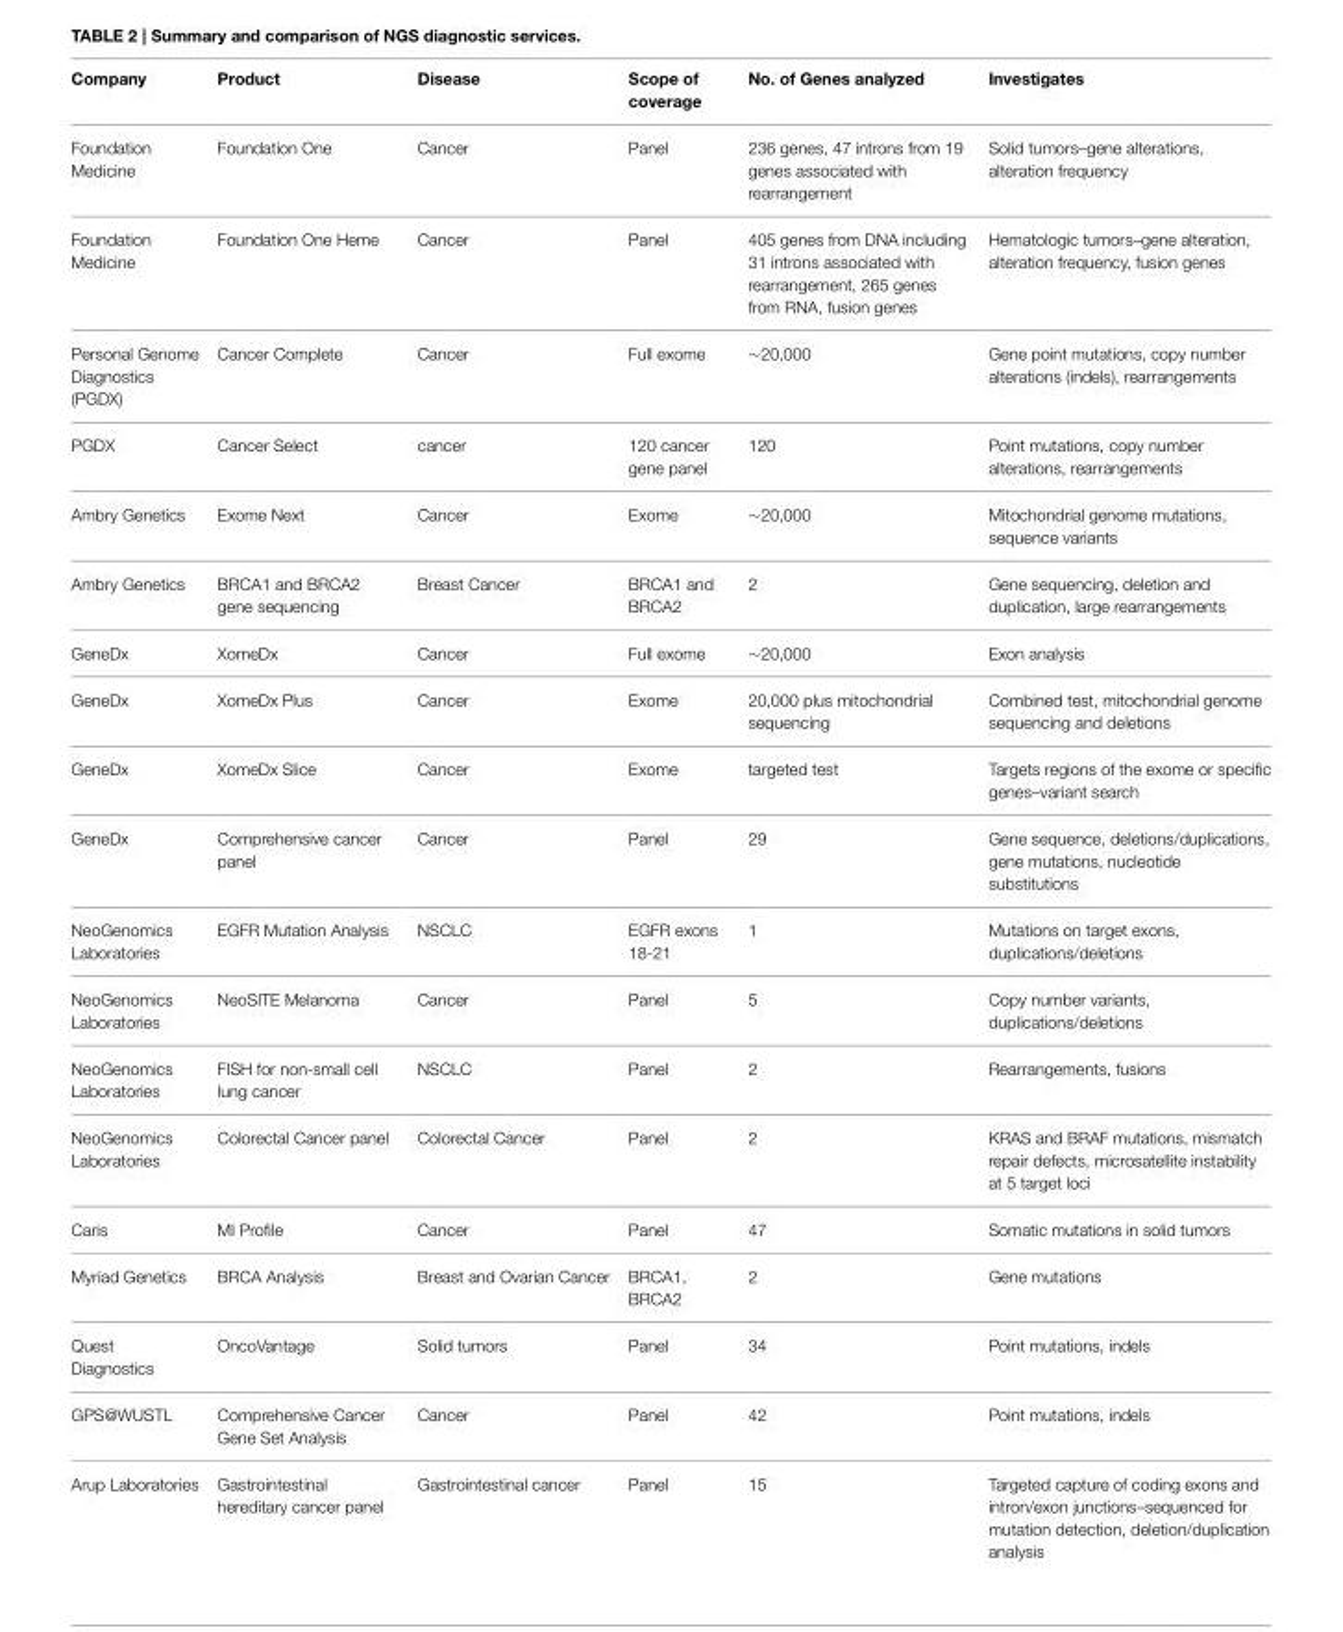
<table><thead><tr><td>Company</td><td>Product</td><td>Disease</td><td>Scope of coverage</td><td>No. of Genes analyzed</td><td>Investigates</td></tr></thead><tbody><tr><td>Foundation Medicine</td><td>Foundation One</td><td>Cancer</td><td>Panel</td><td>236 genes, 47 introns from 19 genes associated with rearrangement</td><td>Solid tumors–gene alterations, alteration frequency</td></tr><tr><td>Foundation Medicine</td><td>Foundation One Heme</td><td>Cancer</td><td>Panel</td><td>405 genes from DNA including 31 introns associated with rearrangement, 265 genes from RNA, fusion genes</td><td>Hematologic tumors–gene alteration, alteration frequency, fusion genes</td></tr><tr><td>Personal Genome Diagnostics (PGDX)</td><td>Cancer Complete</td><td>Cancer</td><td>Full exome</td><td>∼20,000</td><td>Gene point mutations, copy number alterations (indels), rearrangements</td></tr><tr><td>PGDX</td><td>Cancer Select</td><td>cancer</td><td>120 cancer gene panel</td><td>120</td><td>Point mutations, copy number alterations, rearrangements</td></tr><tr><td>Ambry Genetics</td><td>Exome Next</td><td>Cancer</td><td>Exome</td><td>∼20,000</td><td>Mitochondrial genome mutations, sequence variants</td></tr><tr><td>Ambry Genetics</td><td>BRCA1 and BRCA2 gene sequencing</td><td>Breast Cancer</td><td>BRCA1 and BRCA2</td><td>2</td><td>Gene sequencing, deletion and duplication, large rearrangements</td></tr><tr><td>GeneDx</td><td>XomeDx</td><td>Cancer</td><td>Full exome</td><td>∼20,000</td><td>Exon analysis</td></tr><tr><td>GeneDx</td><td>XomeDx Plus</td><td>Cancer</td><td>Exome</td><td>20,000 plus mitochondrial sequencing</td><td>Combined test, mitochondrial genome sequencing and deletions</td></tr><tr><td>GeneDx</td><td>XomeDx Slice</td><td>Cancer</td><td>Exome</td><td>targeted test</td><td>Targets regions of the exome or specific genes–variant search</td></tr><tr><td>GeneDx</td><td>Comprehensive cancer panel</td><td>Cancer</td><td>Panel</td><td>29</td><td>Gene sequence, deletions/duplications, gene mutations, nucleotide substitutions</td></tr><tr><td>NeoGenomics Laboratories</td><td>EGFR Mutation Analysis</td><td>NSCLC</td><td>EGFR exons 18-21</td><td>1</td><td>Mutations on target exons, duplications/deletions</td></tr><tr><td>NeoGenomics Laboratories</td><td>NeoSITE Melanoma</td><td>Cancer</td><td>Panel</td><td>5</td><td>Copy number variants, duplications/deletions</td></tr><tr><td>NeoGenomics Laboratories</td><td>FISH for non-small cell lung cancer</td><td>NSCLC</td><td>Panel</td><td>2</td><td>Rearrangements, fusions</td></tr><tr><td>NeoGenomics Laboratories</td><td>Colorectal Cancer panel</td><td>Colorectal Cancer</td><td>Panel</td><td>2</td><td>KRAS and BRAF mutations, mismatch repair defects, microsatellite instability at 5 target loci</td></tr><tr><td>Caris</td><td>MI Profile</td><td>Cancer</td><td>Panel</td><td>47</td><td>Somatic mutations in solid tumors</td></tr><tr><td>Myriad Genetics</td><td>BRCA Analysis</td><td>Breast and Ovarian Cancer</td><td>BRCA1, BRCA2</td><td>2</td><td>Gene mutations</td></tr><tr><td>Quest Diagnostics</td><td>OncoVantage</td><td>Solid tumors</td><td>Panel</td><td>34</td><td>Point mutations, indels</td></tr><tr><td>GPS@WUSTL</td><td>Comprehensive Cancer Gene Set Analysis</td><td>Cancer</td><td>Panel</td><td>42</td><td>Point mutations, indels</td></tr><tr><td>Arup Laboratories</td><td>Gastrointestinal hereditary cancer panel</td><td>Gastrointestinal cancer</td><td>Panel</td><td>15</td><td>Targeted capture of coding exons and intron/exon junctions–sequenced for mutation detection, deletion/duplication analysis</td></tr></tbody></table>